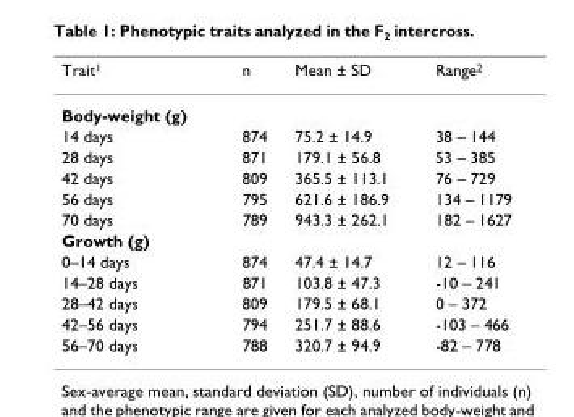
<table><thead><tr><td>Trait<sup>1</sup></td><td>n</td><td>Mean ± SD</td><td>Range<sup>2</sup></td></tr></thead><tbody><tr><td colspan="4">Body-weight (g)</td></tr><tr><td>14 days</td><td>874</td><td>75.2 ± 14.9</td><td>38 – 144</td></tr><tr><td>28 days</td><td>871</td><td>179.1 ± 56.8</td><td>53 – 385</td></tr><tr><td>42 days</td><td>809</td><td>365.5 ± 113.1</td><td>76 – 729</td></tr><tr><td>56 days</td><td>795</td><td>621.6 ± 186.9</td><td>134 – 1179</td></tr><tr><td>70 days</td><td>789</td><td>943.3 ± 262.1</td><td>182 – 1627</td></tr><tr><td colspan="4">Growth (g)</td></tr><tr><td>0–14 days</td><td>874</td><td>47.4 ± 14.7</td><td>12 – 116</td></tr><tr><td>14–28 days</td><td>871</td><td>103.8 ± 47.3</td><td>-10 – 241</td></tr><tr><td>28–42 days</td><td>809</td><td>179.5 ± 68.1</td><td>0 – 372</td></tr><tr><td>42–56 days</td><td>794</td><td>251.7 ± 88.6</td><td>-103 – 466</td></tr><tr><td>56–70 days</td><td>788</td><td>320.7 ± 94.9</td><td>-82 – 778</td></tr></tbody></table>